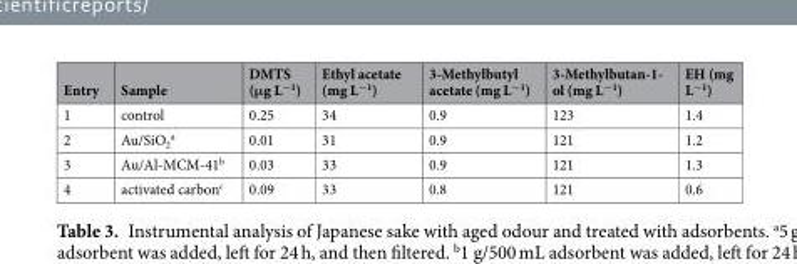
<table><thead><tr><td>Entry</td><td>Sample</td><td>DMTS (μg L<sup>−1</sup>)</td><td>Ethyl acetate (mg L<sup>−1</sup>)</td><td>3-Methylbutyl acetate (mg L<sup>−1</sup>)</td><td>3-Methylbutan-1- ol (mg L<sup>−1</sup>)</td><td>EH (mg L<sup>−1</sup>)</td></tr></thead><tbody><tr><td>1</td><td>control</td><td>0.25</td><td>34</td><td>0.9</td><td>123</td><td>1.4</td></tr><tr><td>2</td><td>Au/SiO<sub>2</sub> <sup>a</sup></td><td>0.01</td><td>31</td><td>0.9</td><td>121</td><td>1.2</td></tr><tr><td>3</td><td>Au/Al-MCM-41<sup>b</sup></td><td>0.03</td><td>33</td><td>0.9</td><td>121</td><td>1.3</td></tr><tr><td>4</td><td>activated carbon<sup>c</sup></td><td>0.09</td><td>33</td><td>0.8</td><td>121</td><td>0.6</td></tr></tbody></table>